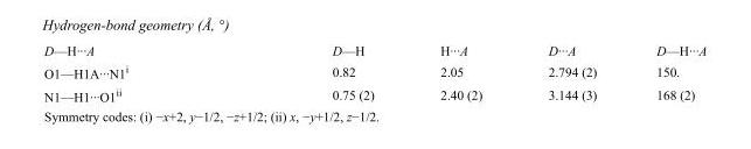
<table><tbody><tr><td>D—H···A</td><td>D—H</td><td>H···A</td><td>D···A</td><td>D—H···A</td></tr><tr><td>O1—H1A···N1<sup>i</sup></td><td>0.82</td><td>2.05</td><td>2.794 (2)</td><td>150.</td></tr><tr><td>N1—H1···O1<sup>ii</sup></td><td>0.75 (2)</td><td>2.40 (2)</td><td>3.144 (3)</td><td>168 (2)</td></tr></tbody></table>